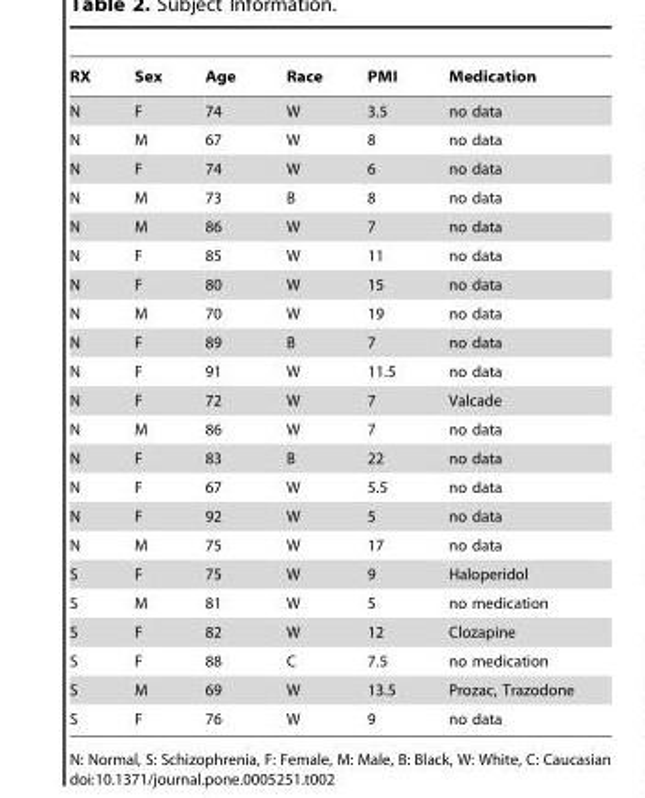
<table><thead><tr><td>RX</td><td>Sex</td><td>Age</td><td>Race</td><td>PMI</td><td>Medication</td></tr></thead><tbody><tr><td>N</td><td>F</td><td>74</td><td>W</td><td>3.5</td><td>no data</td></tr><tr><td>N</td><td>M</td><td>67</td><td>W</td><td>8</td><td>no data</td></tr><tr><td>N</td><td>F</td><td>74</td><td>W</td><td>6</td><td>no data</td></tr><tr><td>N</td><td>M</td><td>73</td><td>B</td><td>8</td><td>no data</td></tr><tr><td>N</td><td>M</td><td>86</td><td>W</td><td>7</td><td>no data</td></tr><tr><td>N</td><td>F</td><td>85</td><td>W</td><td>11</td><td>no data</td></tr><tr><td>N</td><td>F</td><td>80</td><td>W</td><td>15</td><td>no data</td></tr><tr><td>N</td><td>M</td><td>70</td><td>W</td><td>19</td><td>no data</td></tr><tr><td>N</td><td>F</td><td>89</td><td>B</td><td>7</td><td>no data</td></tr><tr><td>N</td><td>F</td><td>91</td><td>W</td><td>11.5</td><td>no data</td></tr><tr><td>N</td><td>F</td><td>72</td><td>W</td><td>7</td><td>Valcade</td></tr><tr><td>N</td><td>M</td><td>86</td><td>W</td><td>7</td><td>no data</td></tr><tr><td>N</td><td>F</td><td>83</td><td>B</td><td>22</td><td>no data</td></tr><tr><td>N</td><td>F</td><td>67</td><td>W</td><td>5.5</td><td>no data</td></tr><tr><td>N</td><td>F</td><td>92</td><td>W</td><td>5</td><td>no data</td></tr><tr><td>N</td><td>M</td><td>75</td><td>W</td><td>17</td><td>no data</td></tr><tr><td>S</td><td>F</td><td>75</td><td>W</td><td>9</td><td>Haloperidol</td></tr><tr><td>S</td><td>M</td><td>81</td><td>W</td><td>5</td><td>no medication</td></tr><tr><td>S</td><td>F</td><td>82</td><td>W</td><td>12</td><td>Clozapine</td></tr><tr><td>S</td><td>F</td><td>88</td><td>C</td><td>7.5</td><td>no medication</td></tr><tr><td>S</td><td>M</td><td>69</td><td>W</td><td>13.5</td><td>Prozac, Trazodone</td></tr><tr><td>S</td><td>F</td><td>76</td><td>W</td><td>9</td><td>no data</td></tr></tbody></table>